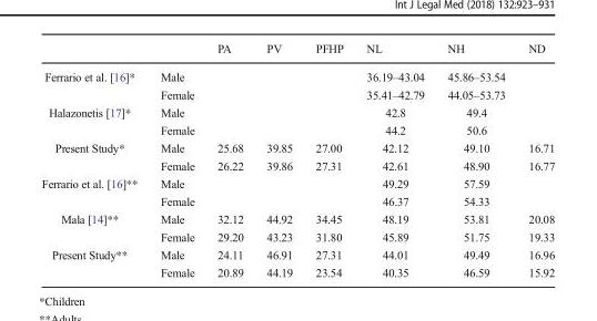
<table><thead><tr><td></td><td></td><td>PA</td><td>PV</td><td>PFHP</td><td>NL</td><td>NH</td><td>ND</td></tr></thead><tbody><tr><td rowspan="2">Ferrario et al. [16]*</td><td>Male</td><td></td><td></td><td></td><td>36.19–43.04</td><td>45.86–53.54</td><td></td></tr><tr><td>Female</td><td></td><td></td><td></td><td>35.41–42.79</td><td>44.05–53.73</td><td></td></tr><tr><td rowspan="2">Halazonetis [17]*</td><td>Male</td><td></td><td></td><td></td><td>42.8</td><td>49.4</td><td></td></tr><tr><td>Female</td><td></td><td></td><td></td><td>44.2</td><td>50.6</td><td></td></tr><tr><td rowspan="2">Present Study*</td><td>Male</td><td>25.68</td><td>39.85</td><td>27.00</td><td>42.12</td><td>49.10</td><td>16.71</td></tr><tr><td>Female</td><td>26.22</td><td>39.86</td><td>27.31</td><td>42.61</td><td>48.90</td><td>16.77</td></tr><tr><td rowspan="2">Ferrario et al. [16]**</td><td>Male</td><td></td><td></td><td></td><td>49.29</td><td>57.59</td><td></td></tr><tr><td>Female</td><td></td><td></td><td></td><td>46.37</td><td>54.33</td><td></td></tr><tr><td rowspan="2">Mala [14]**</td><td>Male</td><td>32.12</td><td>44.92</td><td>34.45</td><td>48.19</td><td>53.81</td><td>20.08</td></tr><tr><td>Female</td><td>29.20</td><td>43.23</td><td>31.80</td><td>45.89</td><td>51.75</td><td>19.33</td></tr><tr><td rowspan="2">Present Study**</td><td>Male</td><td>24.11</td><td>46.91</td><td>27.31</td><td>44.01</td><td>49.49</td><td>16.96</td></tr><tr><td>Female</td><td>20.89</td><td>44.19</td><td>23.54</td><td>40.35</td><td>46.59</td><td>15.92</td></tr></tbody></table>